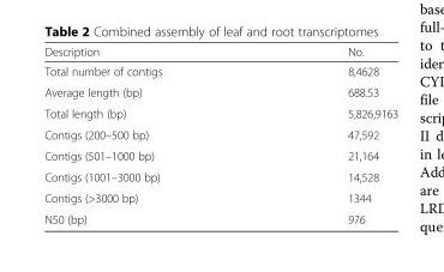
<table><thead><tr><td>Description</td><td>No.</td></tr></thead><tbody><tr><td>Total number of contigs</td><td>8,4628</td></tr><tr><td>Average length (bp)</td><td>688.53</td></tr><tr><td>Total length (bp)</td><td>5,826,9163</td></tr><tr><td>Contigs (200–500 bp)</td><td>47,592</td></tr><tr><td>Contigs (501–1000 bp)</td><td>21,164</td></tr><tr><td>Contigs (1001–3000 bp)</td><td>14,528</td></tr><tr><td>Contigs (&gt;3000 bp)</td><td>1344</td></tr><tr><td>N50 (bp)</td><td>976</td></tr></tbody></table>